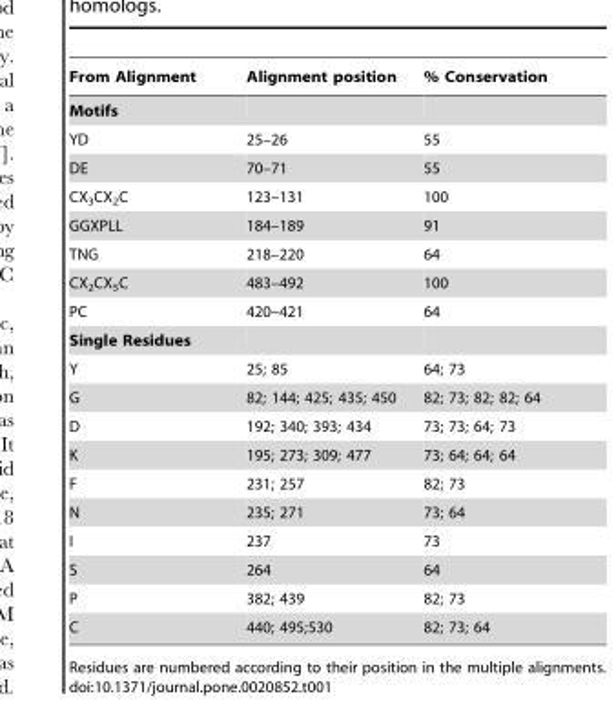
<table><thead><tr><td>From Alignment</td><td>Alignment position</td><td>% Conservation</td></tr></thead><tbody><tr><td colspan="3">Motifs</td></tr><tr><td>YD</td><td>25–26</td><td>55</td></tr><tr><td>DE</td><td>70–71</td><td>55</td></tr><tr><td>CX<sub>3</sub>CX<sub>2</sub>C</td><td>123–131</td><td>100</td></tr><tr><td>GGXPLL</td><td>184–189</td><td>91</td></tr><tr><td>TNG</td><td>218–220</td><td>64</td></tr><tr><td>CX<sub>2</sub>CX<sub>5</sub>C</td><td>483–492</td><td>100</td></tr><tr><td>PC</td><td>420–421</td><td>64</td></tr><tr><td colspan="3">Single Residues</td></tr><tr><td>Y</td><td>25; 85</td><td>64; 73</td></tr><tr><td>G</td><td>82; 144; 425; 435; 450</td><td>82; 73; 82; 82; 64</td></tr><tr><td>D</td><td>192; 340; 393; 434</td><td>73; 73; 64; 73</td></tr><tr><td>K</td><td>195; 273; 309; 477</td><td>73; 64; 64; 64</td></tr><tr><td>F</td><td>231; 257</td><td>82; 73</td></tr><tr><td>N</td><td>235; 271</td><td>73; 64</td></tr><tr><td>I</td><td>237</td><td>73</td></tr><tr><td>S</td><td>264</td><td>64</td></tr><tr><td>P</td><td>382; 439</td><td>82; 73</td></tr><tr><td>C</td><td>440; 495;530</td><td>82; 73; 64</td></tr></tbody></table>